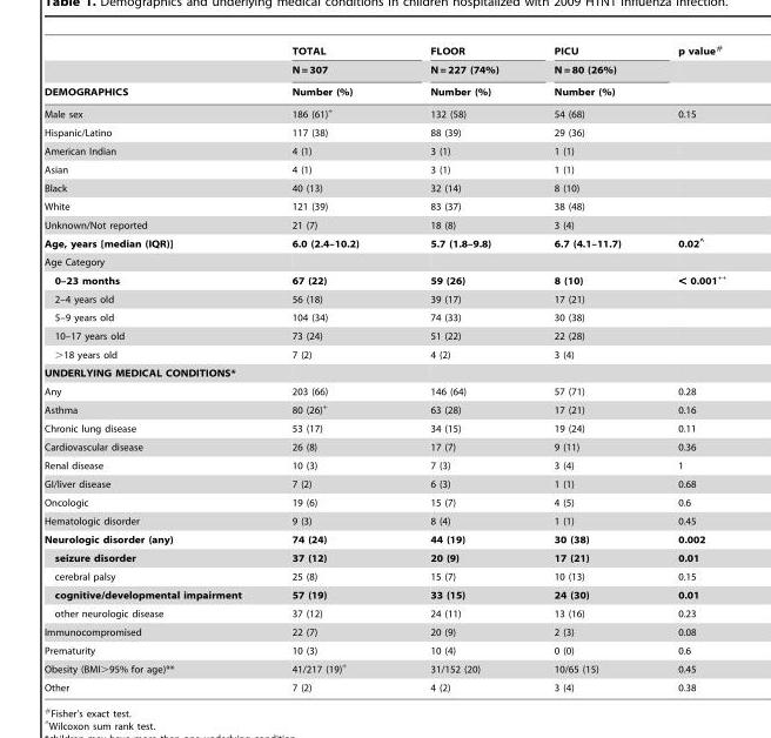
<table><thead><tr><td rowspan="3">DEMOGRAPHICS</td><td rowspan="3">TOTAL N = 307 Number (%)</td><td rowspan="3">FLOOR N = 227 (74%) Number (%)</td><td rowspan="3">PICU N = 80 (26%) Number (%)</td><td rowspan="3">p value#</td></tr><tr></tr><tr></tr></thead><tbody><tr><td>Male sex</td><td>186 (61)+</td><td>132 (58)</td><td>54 (68)</td><td>0.15</td></tr><tr><td>Hispanic/Latino</td><td>117 (38)</td><td>88 (39)</td><td>29 (36)</td><td></td></tr><tr><td>American Indian</td><td>4 (1)</td><td>3 (1)</td><td>1 (1)</td><td></td></tr><tr><td>Asian</td><td>4 (1)</td><td>3 (1)</td><td>1 (1)</td><td></td></tr><tr><td>Black</td><td>40 (13)</td><td>32 (14)</td><td>8 (10)</td><td></td></tr><tr><td>White</td><td>121 (39)</td><td>83 (37)</td><td>38 (48)</td><td></td></tr><tr><td>Unknown/Not reported</td><td>21 (7)</td><td>18 (8)</td><td>3 (4)</td><td></td></tr><tr><td>Age, years [median (IQR)]</td><td>6.0 (2.4–10.2)</td><td>5.7 (1.8–9.8)</td><td>6.7 (4.1–11.7)</td><td>0.02∧</td></tr><tr><td colspan="5">Age Category</td></tr><tr><td>0–23 months</td><td>67 (22)</td><td>59 (26)</td><td>8 (10)</td><td>&lt; 0.001++</td></tr><tr><td>2–4 years old</td><td>56 (18)</td><td>39 (17)</td><td>17 (21)</td><td></td></tr><tr><td>5–9 years old</td><td>104 (34)</td><td>74 (33)</td><td>30 (38)</td><td></td></tr><tr><td>10–17 years old</td><td>73 (24)</td><td>51 (22)</td><td>22 (28)</td><td></td></tr><tr><td>&gt;18 years old</td><td>7 (2)</td><td>4 (2)</td><td>3 (4)</td><td></td></tr><tr><td colspan="5">UNDERLYING MEDICAL CONDITIONS*</td></tr><tr><td>Any</td><td>203 (66)</td><td>146 (64)</td><td>57 (71)</td><td>0.28</td></tr><tr><td>Asthma</td><td>80 (26)+</td><td>63 (28)</td><td>17 (21)</td><td>0.16</td></tr><tr><td>Chronic lung disease</td><td>53 (17)</td><td>34 (15)</td><td>19 (24)</td><td>0.11</td></tr><tr><td>Cardiovascular disease</td><td>26 (8)</td><td>17 (7)</td><td>9 (11)</td><td>0.36</td></tr><tr><td>Renal disease</td><td>10 (3)</td><td>7 (3)</td><td>3 (4)</td><td>1</td></tr><tr><td>GI/liver disease</td><td>7 (2)</td><td>6 (3)</td><td>1 (1)</td><td>0.68</td></tr><tr><td>Oncologic</td><td>19 (6)</td><td>15 (7)</td><td>4 (5)</td><td>0.6</td></tr><tr><td>Hematologic disorder</td><td>9 (3)</td><td>8 (4)</td><td>1 (1)</td><td>0.45</td></tr><tr><td>Neurologic disorder (any)</td><td>74 (24)</td><td>44 (19)</td><td>30 (38)</td><td>0.002</td></tr><tr><td>seizure disorder</td><td>37 (12)</td><td>20 (9)</td><td>17 (21)</td><td>0.01</td></tr><tr><td>cerebral palsy</td><td>25 (8)</td><td>15 (7)</td><td>10 (13)</td><td>0.15</td></tr><tr><td>cognitive/developmental impairment</td><td>57 (19)</td><td>33 (15)</td><td>24 (30)</td><td>0.01</td></tr><tr><td>other neurologic disease</td><td>37 (12)</td><td>24 (11)</td><td>13 (16)</td><td>0.23</td></tr><tr><td>Immunocompromised</td><td>22 (7)</td><td>20 (9)</td><td>2 (3)</td><td>0.08</td></tr><tr><td>Prematurity</td><td>10 (3)</td><td>10 (4)</td><td>0 (0)</td><td>0.6</td></tr><tr><td>Obesity (BMI&gt;95% for age)**</td><td>41/217 (19)+</td><td>31/152 (20)</td><td>10/65 (15)</td><td>0.45</td></tr><tr><td>Other</td><td>7 (2)</td><td>4 (2)</td><td>3 (4)</td><td>0.38</td></tr></tbody></table>